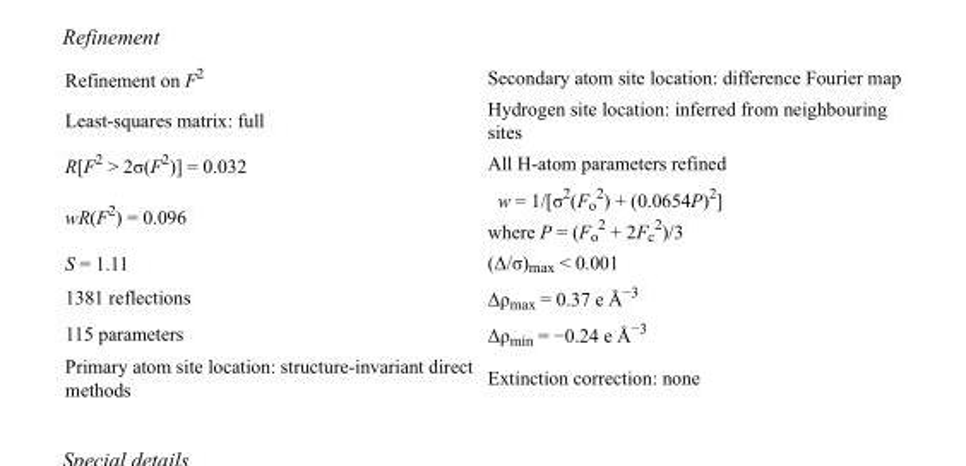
<table><tbody><tr><td>Refinement on F<sup>2</sup></td><td>Secondary atom site location: difference Fourier map</td></tr><tr><td>Least-squares matrix: full</td><td>Hydrogen site location: inferred from neighbouring sites</td></tr><tr><td>R[F<sup>2</sup> &gt; 2σ(F<sup>2</sup>)] = 0.032</td><td>All H-atom parameters refined</td></tr><tr><td>wR(F<sup>2</sup>) = 0.096</td><td>w = 1/[σ<sup>2</sup>(F<sub>o</sub> <sup>2</sup>) + (0.0654P)<sup>2</sup>] where P = (F<sub>o</sub> <sup>2</sup> + 2F<sub>c</sub> <sup>2</sup>)/3</td></tr><tr><td>S = 1.11</td><td>(Δ/σ)<sub>max</sub> &lt; 0.001</td></tr><tr><td>1381 reflections</td><td>Δρ<sub>max</sub> = 0.37 e Å<sup>−3</sup></td></tr><tr><td>115 parameters</td><td>Δρ<sub>min</sub> = −0.24 e Å<sup>−3</sup></td></tr><tr><td>Primary atom site location: structure-invariant direct methods</td><td>Extinction correction: none</td></tr></tbody></table>